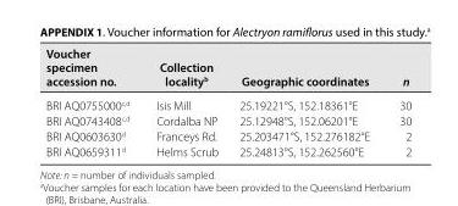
<table><thead><tr><td>Voucher specimen accession no.</td><td>Collection locality<sup>b</sup></td><td>Geographic coordinates</td><td>n</td></tr></thead><tbody><tr><td>BRI AQ0755000<sup>c,</sup>d</td><td>Isis Mill</td><td>25.19221°S, 152.18361°E</td><td>30</td></tr><tr><td>BRI AQ0743408<sup>c,</sup>d</td><td>Cordalba NP</td><td>25.12948°S, 152.06201°E</td><td>30</td></tr><tr><td>BRI AQ0603630<sup>d</sup></td><td>Franceys Rd.</td><td>25.203471°S, 152.276182°E</td><td>2</td></tr><tr><td>BRI AQ0659311<sup>d</sup></td><td>Helms Scrub</td><td>25.24813°S, 152.262560°E</td><td>2</td></tr></tbody></table>